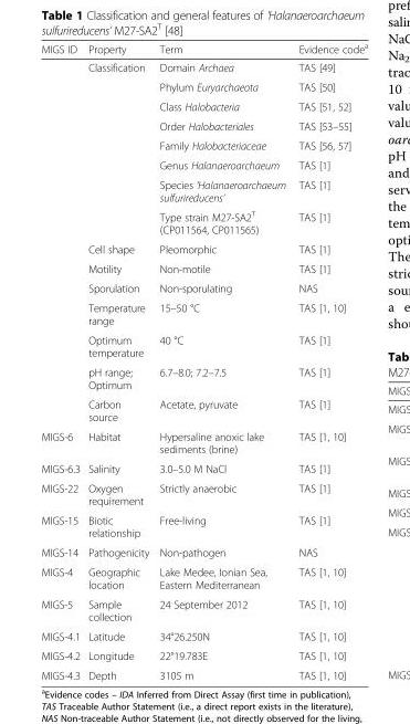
<table><thead><tr><td>MIGS ID</td><td>Property</td><td>Term</td><td>Evidence code<sup>a</sup></td></tr></thead><tbody><tr><td rowspan="8"></td><td rowspan="8">Classification</td><td>Domain Archaea</td><td>TAS [49]</td></tr><tr><td>Phylum Euryarchaeota</td><td>TAS [50]</td></tr><tr><td>Class Halobacteria</td><td>TAS [51, 52]</td></tr><tr><td>Order Halobacteriales</td><td>TAS [53–55]</td></tr><tr><td>Family Halobacteriaceae</td><td>TAS [56, 57]</td></tr><tr><td>Genus Halanaeroarchaeum</td><td>TAS [1]</td></tr><tr><td>Species ‘Halanaeroarchaeum sulfurireducens’</td><td>TAS [1]</td></tr><tr><td>Type strain M27-SA2<sup>T</sup> (CP011564, CP011565)</td><td>TAS [1]</td></tr><tr><td></td><td>Cell shape</td><td>Pleomorphic</td><td>TAS [1]</td></tr><tr><td></td><td>Motility</td><td>Non-motile</td><td>TAS [1]</td></tr><tr><td></td><td>Sporulation</td><td>Non-sporulating</td><td>NAS</td></tr><tr><td></td><td>Temperature range</td><td>15–50 °C</td><td>TAS [1, 10]</td></tr><tr><td></td><td>Optimum temperature</td><td>40 °C</td><td>TAS [1]</td></tr><tr><td></td><td>pH range; Optimum</td><td>6.7–8.0; 7.2–7.5</td><td>TAS [1]</td></tr><tr><td></td><td>Carbon source</td><td>Acetate, pyruvate</td><td>TAS [1]</td></tr><tr><td>MIGS-6</td><td>Habitat</td><td>Hypersaline anoxic lake sediments (brine)</td><td>TAS [1, 10]</td></tr><tr><td>MIGS-6.3</td><td>Salinity</td><td>3.0–5.0 M NaCl</td><td>TAS [1]</td></tr><tr><td>MIGS-22</td><td>Oxygen requirement</td><td>Strictly anaerobic</td><td>TAS [1]</td></tr><tr><td>MIGS-15</td><td>Biotic relationship</td><td>Free-living</td><td>TAS [1]</td></tr><tr><td>MIGS-14</td><td>Pathogenicity</td><td>Non-pathogen</td><td>NAS</td></tr><tr><td>MIGS-4</td><td>Geographic location</td><td>Lake Medee, Ionian Sea, Eastern Mediterranean</td><td>TAS [1, 10]</td></tr><tr><td>MIGS-5</td><td>Sample collection</td><td>24 September 2012</td><td>TAS [1, 10]</td></tr><tr><td>MIGS-4.1</td><td>Latitude</td><td>34°26.250N</td><td>TAS [1, 10]</td></tr><tr><td>MIGS-4.2</td><td>Longitude</td><td>22°19.783E</td><td>TAS [1, 10]</td></tr><tr><td>MIGS-4.3</td><td>Depth</td><td>3105 m</td><td>TAS [1, 10]</td></tr></tbody></table>